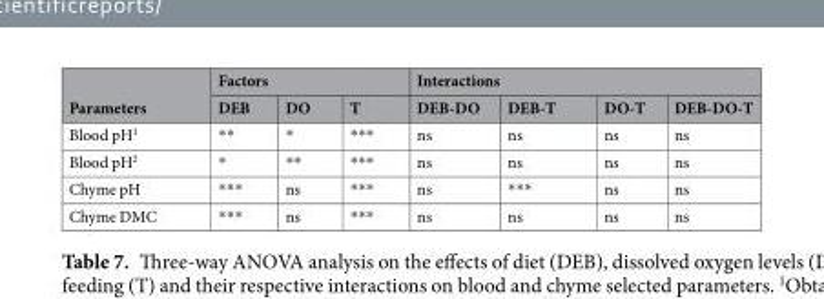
<table><thead><tr><td rowspan="2">Parameters</td><td colspan="3">Factors</td><td colspan="4">Interactions</td></tr><tr><td>DEB</td><td>DO</td><td>T</td><td>DEB-DO</td><td>DEB-T</td><td>DO-T</td><td>DEB-DO-T</td></tr></thead><tbody><tr><td>Blood pH<sup>1</sup></td><td>**</td><td>*</td><td>***</td><td>ns</td><td>ns</td><td>ns</td><td>ns</td></tr><tr><td>Blood pH<sup>2</sup></td><td>*</td><td>**</td><td>***</td><td>ns</td><td>ns</td><td>ns</td><td>ns</td></tr><tr><td>Chyme pH</td><td>***</td><td>ns</td><td>***</td><td>ns</td><td>***</td><td>ns</td><td>ns</td></tr><tr><td>Chyme DMC</td><td>***</td><td>ns</td><td>***</td><td>ns</td><td>ns</td><td>ns</td><td>ns</td></tr></tbody></table>